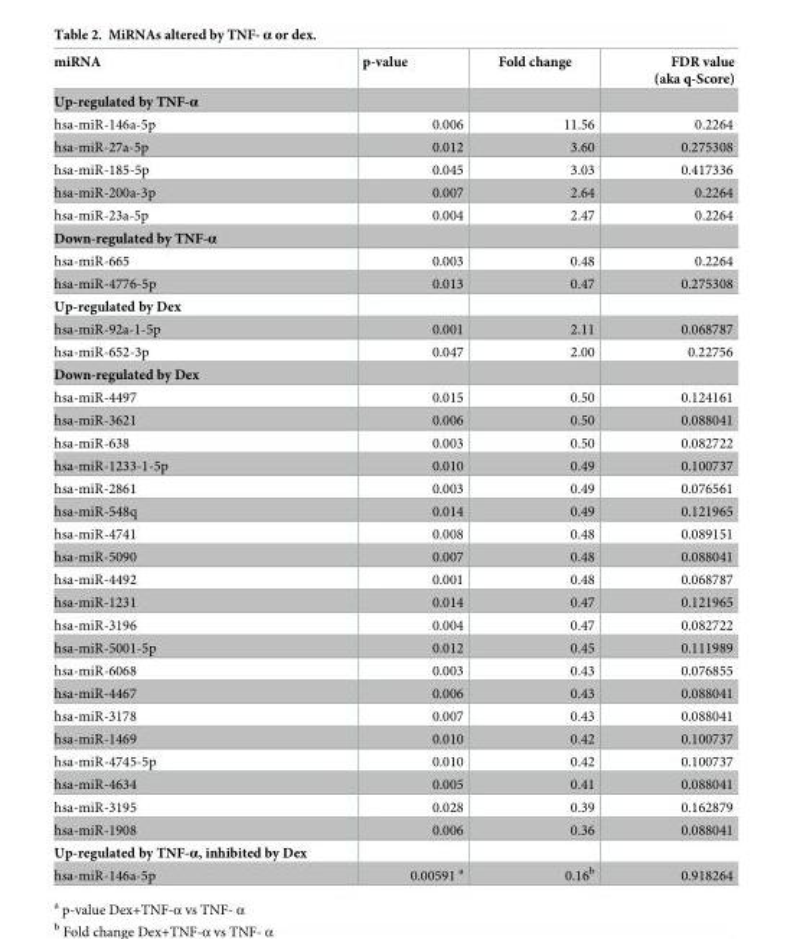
<table><thead><tr><td>miRNA</td><td>p-value</td><td>Fold change</td><td>FDR value (aka q-Score)</td></tr></thead><tbody><tr><td colspan="4">Up-regulated by TNF-α</td></tr><tr><td>hsa-miR-146a-5p</td><td>0.006</td><td>11.56</td><td>0.2264</td></tr><tr><td>hsa-miR-27a-5p</td><td>0.012</td><td>3.60</td><td>0.275308</td></tr><tr><td>hsa-miR-185-5p</td><td>0.045</td><td>3.03</td><td>0.417336</td></tr><tr><td>hsa-miR-200a-3p</td><td>0.007</td><td>2.64</td><td>0.2264</td></tr><tr><td>hsa-miR-23a-5p</td><td>0.004</td><td>2.47</td><td>0.2264</td></tr><tr><td colspan="4">Down-regulated by TNF-α</td></tr><tr><td>hsa-miR-665</td><td>0.003</td><td>0.48</td><td>0.2264</td></tr><tr><td>hsa-miR-4776-5p</td><td>0.013</td><td>0.47</td><td>0.275308</td></tr><tr><td colspan="4">Up-regulated by Dex</td></tr><tr><td>hsa-miR-92a-1-5p</td><td>0.001</td><td>2.11</td><td>0.068787</td></tr><tr><td>hsa-miR-652-3p</td><td>0.047</td><td>2.00</td><td>0.22756</td></tr><tr><td colspan="4">Down-regulated by Dex</td></tr><tr><td>hsa-miR-4497</td><td>0.015</td><td>0.50</td><td>0.124161</td></tr><tr><td>hsa-miR-3621</td><td>0.006</td><td>0.50</td><td>0.088041</td></tr><tr><td>hsa-miR-638</td><td>0.003</td><td>0.50</td><td>0.082722</td></tr><tr><td>hsa-miR-1233-1-5p</td><td>0.010</td><td>0.49</td><td>0.100737</td></tr><tr><td>hsa-miR-2861</td><td>0.003</td><td>0.49</td><td>0.076561</td></tr><tr><td>hsa-miR-548q</td><td>0.014</td><td>0.49</td><td>0.121965</td></tr><tr><td>hsa-miR-4741</td><td>0.008</td><td>0.48</td><td>0.089151</td></tr><tr><td>hsa-miR-5090</td><td>0.007</td><td>0.48</td><td>0.088041</td></tr><tr><td>hsa-miR-4492</td><td>0.001</td><td>0.48</td><td>0.068787</td></tr><tr><td>hsa-miR-1231</td><td>0.014</td><td>0.47</td><td>0.121965</td></tr><tr><td>hsa-miR-3196</td><td>0.004</td><td>0.47</td><td>0.082722</td></tr><tr><td>hsa-miR-5001-5p</td><td>0.012</td><td>0.45</td><td>0.111989</td></tr><tr><td>hsa-miR-6068</td><td>0.003</td><td>0.43</td><td>0.076855</td></tr><tr><td>hsa-miR-4467</td><td>0.006</td><td>0.43</td><td>0.088041</td></tr><tr><td>hsa-miR-3178</td><td>0.007</td><td>0.43</td><td>0.088041</td></tr><tr><td>hsa-miR-1469</td><td>0.010</td><td>0.42</td><td>0.100737</td></tr><tr><td>hsa-miR-4745-5p</td><td>0.010</td><td>0.42</td><td>0.100737</td></tr><tr><td>hsa-miR-4634</td><td>0.005</td><td>0.41</td><td>0.088041</td></tr><tr><td>hsa-miR-3195</td><td>0.028</td><td>0.39</td><td>0.162879</td></tr><tr><td>hsa-miR-1908</td><td>0.006</td><td>0.36</td><td>0.088041</td></tr><tr><td colspan="4">Up-regulated by TNF-α, inhibited by Dex</td></tr><tr><td>hsa-miR-146a-5p</td><td>0.00591 <sup>a</sup></td><td>0.16<sup>b</sup></td><td>0.918264</td></tr></tbody></table>